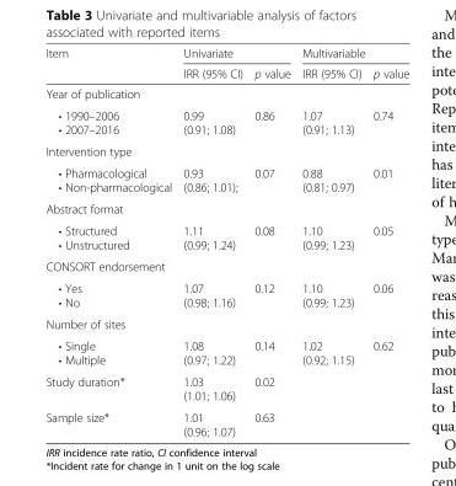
<table><thead><tr><td rowspan="2">Item</td><td colspan="2">Univariate</td><td colspan="2">Multivariable</td></tr><tr><td>IRR (95% CI)</td><td>p value</td><td>IRR (95% CI)</td><td>p value</td></tr></thead><tbody><tr><td colspan="5">Year of publication</td></tr><tr><td>• 1990–2006 • 2007–2016</td><td>0.99 (0.91; 1.08)</td><td>0.86</td><td>1.07 (0.91; 1.13)</td><td>0.74</td></tr><tr><td colspan="5">Intervention type</td></tr><tr><td>• Pharmacological • Non-pharmacological</td><td>0.93 (0.86; 1.01);</td><td>0.07</td><td>0.88 (0.81; 0.97)</td><td>0.01</td></tr><tr><td colspan="5">Abstract format</td></tr><tr><td>• Structured • Unstructured</td><td>1.11 (0.99; 1.24)</td><td>0.08</td><td>1.10 (0.99; 1.23)</td><td>0.05</td></tr><tr><td colspan="5">CONSORT endorsement</td></tr><tr><td>• Yes • No</td><td>1.07 (0.98; 1.16)</td><td>0.12</td><td>1.10 (0.99; 1.23)</td><td>0.06</td></tr><tr><td colspan="5">Number of sites</td></tr><tr><td>• Single • Multiple</td><td>1.08 (0.97; 1.22)</td><td>0.14</td><td>1.02 (0.92; 1.15)</td><td>0.62</td></tr><tr><td>Study duration*</td><td>1.03 (1.01; 1.06)</td><td>0.02</td><td></td><td></td></tr><tr><td>Sample size*</td><td>1.01 (0.96; 1.07)</td><td>0.63</td><td></td><td></td></tr></tbody></table>